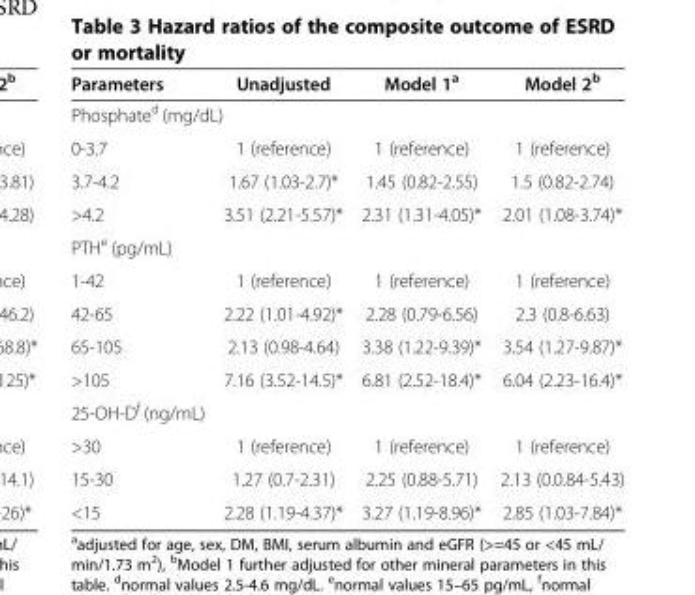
<table><thead><tr><td>Parameters</td><td>Unadjusted</td><td>Model 1<sup>a</sup></td><td>Model 2<sup>b</sup></td></tr></thead><tbody><tr><td colspan="4">Phosphate<sup>d</sup> (mg/dL)</td></tr><tr><td>0-3.7</td><td>1 (reference)</td><td>1 (reference)</td><td>1 (reference)</td></tr><tr><td>3.7-4.2</td><td>1.67 (1.03-2.7)*</td><td>1.45 (0.82-2.55)</td><td>1.5 (0.82-2.74)</td></tr><tr><td>&gt;4.2</td><td>3.51 (2.21-5.57)*</td><td>2.31 (1.31-4.05)*</td><td>2.01 (1.08-3.74)*</td></tr><tr><td colspan="4">PTH<sup>e</sup> (pg/mL)</td></tr><tr><td>1-42</td><td>1 (reference)</td><td>1 (reference)</td><td>1 (reference)</td></tr><tr><td>42-65</td><td>2.22 (1.01-4.92)*</td><td>2.28 (0.79-6.56)</td><td>2.3 (0.8-6.63)</td></tr><tr><td>65-105</td><td>2.13 (0.98-4.64)</td><td>3.38 (1.22-9.39)*</td><td>3.54 (1.27-9.87)*</td></tr><tr><td>&gt;105</td><td>7.16 (3.52-14.5)*</td><td>6.81 (2.52-18.4)*</td><td>6.04 (2.23-16.4)*</td></tr><tr><td colspan="4">25-OH-D<sup>f</sup> (ng/mL)</td></tr><tr><td>&gt;30</td><td>1 (reference)</td><td>1 (reference)</td><td>1 (reference)</td></tr><tr><td>15-30</td><td>1.27 (0.7-2.31)</td><td>2.25 (0.88-5.71)</td><td>2.13 (0.0.84-5.43)</td></tr><tr><td>&lt;15</td><td>2.28 (1.19-4.37)*</td><td>3.27 (1.19-8.96)*</td><td>2.85 (1.03-7.84)*</td></tr></tbody></table>